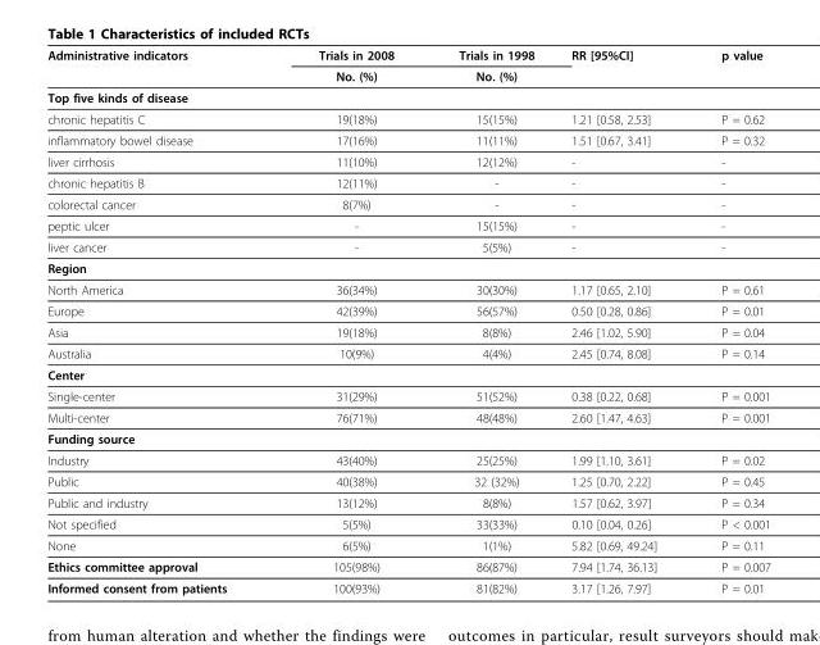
<table><thead><tr><td rowspan="2">Administrative indicators</td><td rowspan="2">Trials in 2008 No. (%)</td><td rowspan="2">Trials in 1998 No. (%)</td><td rowspan="2">RR [95%CI]</td><td rowspan="2">p value</td></tr><tr></tr></thead><tbody><tr><td colspan="5">Top five kinds of disease</td></tr><tr><td>chronic hepatitis C</td><td>19(18%)</td><td>15(15%)</td><td>1.21 [0.58, 2.53]</td><td>P = 0.62</td></tr><tr><td>inflammatory bowel disease</td><td>17(16%)</td><td>11(11%)</td><td>1.51 [0.67, 3.41]</td><td>P = 0.32</td></tr><tr><td>liver cirrhosis</td><td>11(10%)</td><td>12(12%)</td><td>-</td><td>-</td></tr><tr><td>chronic hepatitis B</td><td>12(11%)</td><td>-</td><td>-</td><td>-</td></tr><tr><td>colorectal cancer</td><td>8(7%)</td><td>-</td><td>-</td><td>-</td></tr><tr><td>peptic ulcer</td><td>-</td><td>15(15%)</td><td>-</td><td>-</td></tr><tr><td>liver cancer</td><td>-</td><td>5(5%)</td><td>-</td><td>-</td></tr><tr><td colspan="5">Region</td></tr><tr><td>North America</td><td>36(34%)</td><td>30(30%)</td><td>1.17 [0.65, 2.10]</td><td>P = 0.61</td></tr><tr><td>Europe</td><td>42(39%)</td><td>56(57%)</td><td>0.50 [0.28, 0.86]</td><td>P = 0.01</td></tr><tr><td>Asia</td><td>19(18%)</td><td>8(8%)</td><td>2.46 [1.02, 5.90]</td><td>P = 0.04</td></tr><tr><td>Australia</td><td>10(9%)</td><td>4(4%)</td><td>2.45 [0.74, 8.08]</td><td>P = 0.14</td></tr><tr><td colspan="5">Center</td></tr><tr><td>Single-center</td><td>31(29%)</td><td>51(52%)</td><td>0.38 [0.22, 0.68]</td><td>P = 0.001</td></tr><tr><td>Multi-center</td><td>76(71%)</td><td>48(48%)</td><td>2.60 [1.47, 4.63]</td><td>P = 0.001</td></tr><tr><td colspan="5">Funding source</td></tr><tr><td>Industry</td><td>43(40%)</td><td>25(25%)</td><td>1.99 [1.10, 3.61]</td><td>P = 0.02</td></tr><tr><td>Public</td><td>40(38%)</td><td>32 (32%)</td><td>1.25 [0.70, 2.22]</td><td>P = 0.45</td></tr><tr><td>Public and industry</td><td>13(12%)</td><td>8(8%)</td><td>1.57 [0.62, 3.97]</td><td>P = 0.34</td></tr><tr><td>Not specified</td><td>5(5%)</td><td>33(33%)</td><td>0.10 [0.04, 0.26]</td><td>P &lt; 0.001</td></tr><tr><td>None</td><td>6(5%)</td><td>1(1%)</td><td>5.82 [0.69, 49.24]</td><td>P = 0.11</td></tr><tr><td>Ethics committee approval</td><td>105(98%)</td><td>86(87%)</td><td>7.94 [1.74, 36.13]</td><td>P = 0.007</td></tr><tr><td>Informed consent from patients</td><td>100(93%)</td><td>81(82%)</td><td>3.17 [1.26, 7.97]</td><td>P = 0.01</td></tr></tbody></table>